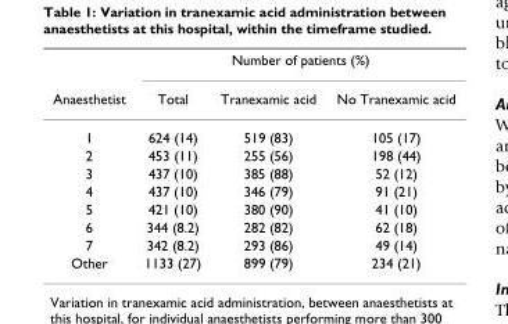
<table><thead><tr><td rowspan="2">Anaesthetist</td><td colspan="3">Number of patients (%)</td></tr><tr><td>Total</td><td>Tranexamic acid</td><td>No Tranexamic acid</td></tr></thead><tbody><tr><td>1</td><td>624 (14)</td><td>519 (83)</td><td>105 (17)</td></tr><tr><td>2</td><td>453 (11)</td><td>255 (56)</td><td>198 (44)</td></tr><tr><td>3</td><td>437 (10)</td><td>385 (88)</td><td>52 (12)</td></tr><tr><td>4</td><td>437 (10)</td><td>346 (79)</td><td>91 (21)</td></tr><tr><td>5</td><td>421 (10)</td><td>380 (90)</td><td>41 (10)</td></tr><tr><td>6</td><td>344 (8.2)</td><td>282 (82)</td><td>62 (18)</td></tr><tr><td>7</td><td>342 (8.2)</td><td>293 (86)</td><td>49 (14)</td></tr><tr><td>Other</td><td>1133 (27)</td><td>899 (79)</td><td>234 (21)</td></tr></tbody></table>